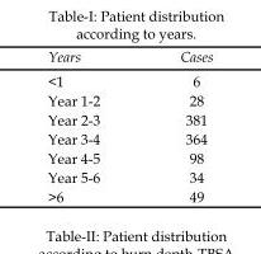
<table><thead><tr><td>Years</td><td>Cases</td></tr></thead><tbody><tr><td>&lt;1</td><td>6</td></tr><tr><td>Year 1-2</td><td>28</td></tr><tr><td>Year 2-3</td><td>381</td></tr><tr><td>Year 3-4</td><td>364</td></tr><tr><td>Year 4-5</td><td>98</td></tr><tr><td>Year 5-6</td><td>34</td></tr><tr><td>&gt;6</td><td>49</td></tr></tbody></table>